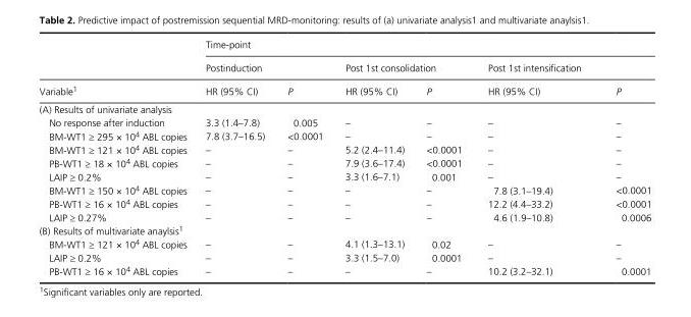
<table><thead><tr><td rowspan="3">Variable1</td><td colspan="6">Time- point</td></tr><tr><td colspan="2">Postinduction</td><td colspan="2">Post 1st consolidation</td><td colspan="2">Post 1st intensification</td></tr><tr><td>HR (95% CI)</td><td>P</td><td>HR (95% CI)</td><td>P</td><td>HR (95% CI)</td><td>P</td></tr></thead><tbody><tr><td colspan="7">(A) Results of univariate analysis</td></tr><tr><td>No response after induction</td><td>3.3 (1.4–7.8)</td><td>0.005</td><td>–</td><td>–</td><td>–</td><td>–</td></tr><tr><td>BM- WT1 ≥ 295 × 10<sup>4</sup> ABL copies</td><td>7.8 (3.7–16.5)</td><td>&lt;0.0001</td><td>–</td><td>–</td><td>–</td><td>–</td></tr><tr><td>BM- WT1 ≥ 121 × 10<sup>4</sup> ABL copies</td><td>–</td><td>–</td><td>5.2 (2.4–11.4)</td><td>&lt;0.0001</td><td>–</td><td>–</td></tr><tr><td>PB- WT1 ≥ 18 × 10<sup>4</sup> ABL copies</td><td>–</td><td>–</td><td>7.9 (3.6–17.4)</td><td>&lt;0.0001</td><td>–</td><td>–</td></tr><tr><td>LAIP ≥ 0.2%</td><td>–</td><td>–</td><td>3.3 (1.6–7.1)</td><td>0.001</td><td>–</td><td>–</td></tr><tr><td>BM- WT1 ≥ 150 × 10<sup>4</sup> ABL copies</td><td>–</td><td>–</td><td>–</td><td>–</td><td>7.8 (3.1–19.4)</td><td>&lt;0.0001</td></tr><tr><td>PB- WT1 ≥ 16 × 10<sup>4</sup> ABL copies</td><td>–</td><td>–</td><td>–</td><td>–</td><td>12.2 (4.4–33.2)</td><td>&lt;0.0001</td></tr><tr><td>LAIP ≥ 0.27%</td><td>–</td><td>–</td><td>–</td><td>–</td><td>4.6 (1.9–10.8)</td><td>0.0006</td></tr><tr><td colspan="7">(B) Results of multivariate anaylsis1</td></tr><tr><td>BM- WT1 ≥ 121 × 10<sup>4</sup> ABL copies</td><td>–</td><td>–</td><td>4.1 (1.3–13.1)</td><td>0.02</td><td>–</td><td>–</td></tr><tr><td>LAIP ≥ 0.2%</td><td>–</td><td>–</td><td>3.3 (1.5–7.0)</td><td>0.0001</td><td>–</td><td>–</td></tr><tr><td>PB- WT1 ≥ 16 × 10<sup>4</sup> ABL copies</td><td>–</td><td>–</td><td>–</td><td>–</td><td>10.2 (3.2–32.1)</td><td>0.0001</td></tr></tbody></table>